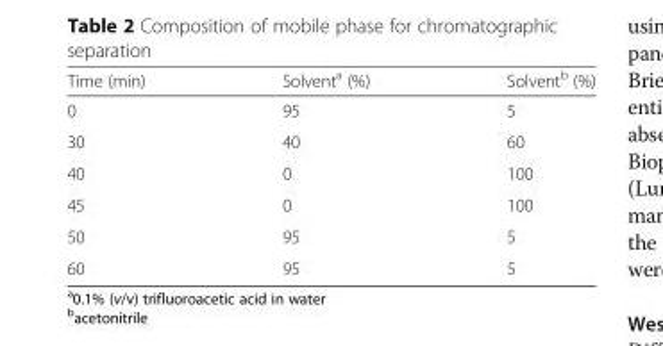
<table><thead><tr><td>Time (min)</td><td>Solvent<sup>a</sup> (%)</td><td>Solvent<sup>b</sup> (%)</td></tr></thead><tbody><tr><td>0</td><td>95</td><td>5</td></tr><tr><td>30</td><td>40</td><td>60</td></tr><tr><td>40</td><td>0</td><td>100</td></tr><tr><td>45</td><td>0</td><td>100</td></tr><tr><td>50</td><td>95</td><td>5</td></tr><tr><td>60</td><td>95</td><td>5</td></tr></tbody></table>